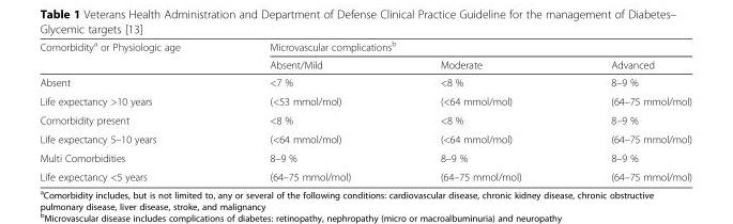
<table><thead><tr><td rowspan="2">Comorbidity<sup>a</sup> or Physiologic age</td><td colspan="3">Microvascular complications<sup>b</sup></td></tr><tr><td>Absent/Mild</td><td>Moderate</td><td>Advanced</td></tr></thead><tbody><tr><td>Absent</td><td>&lt;7 %</td><td>&lt;8 %</td><td>8–9 %</td></tr><tr><td>Life expectancy &gt;10 years</td><td>(&lt;53 mmol/mol)</td><td>(&lt;64 mmol/mol)</td><td>(64–75 mmol/mol)</td></tr><tr><td>Comorbidity present</td><td>&lt;8 %</td><td>&lt;8 %</td><td>8–9 %</td></tr><tr><td>Life expectancy 5–10 years</td><td>(&lt;64 mmol/mol)</td><td>(&lt;64 mmol/mol)</td><td>(64–75 mmol/mol)</td></tr><tr><td>Multi Comorbidities</td><td>8–9 %</td><td>8–9 %</td><td>8–9 %</td></tr><tr><td>Life expectancy &lt;5 years</td><td>(64–75 mmol/mol)</td><td>(64–75 mmol/mol)</td><td>(64–75 mmol/mol)</td></tr></tbody></table>